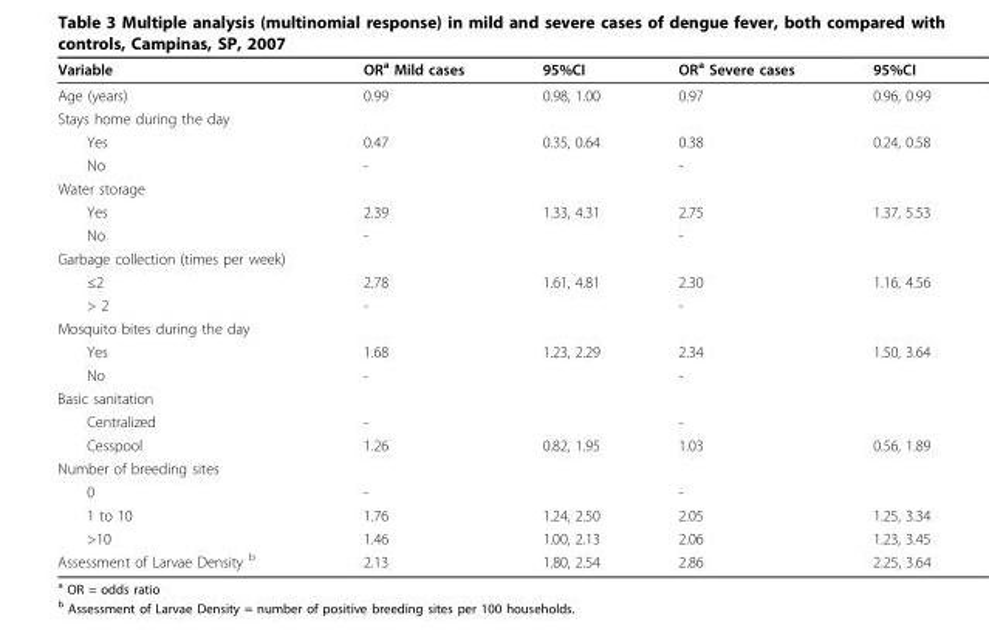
<table><thead><tr><td>Variable</td><td>OR<sup>a</sup> Mild cases</td><td>95%CI</td><td>OR<sup>a</sup> Severe cases</td><td>95%CI</td></tr></thead><tbody><tr><td>Age (years)</td><td>0.99</td><td>0.98, 1.00</td><td>0.97</td><td>0.96, 0.99</td></tr><tr><td colspan="5">Stays home during the day</td></tr><tr><td>Yes</td><td>0.47</td><td>0.35, 0.64</td><td>0.38</td><td>0.24, 0.58</td></tr><tr><td>No</td><td>-</td><td></td><td>-</td><td></td></tr><tr><td colspan="5">Water storage</td></tr><tr><td>Yes</td><td>2.39</td><td>1.33, 4.31</td><td>2.75</td><td>1.37, 5.53</td></tr><tr><td>No</td><td>-</td><td></td><td>-</td><td></td></tr><tr><td colspan="5">Garbage collection (times per week)</td></tr><tr><td>≤2</td><td>2.78</td><td>1.61, 4.81</td><td>2.30</td><td>1.16, 4.56</td></tr><tr><td>&gt; 2</td><td>-</td><td></td><td>-</td><td></td></tr><tr><td colspan="5">Mosquito bites during the day</td></tr><tr><td>Yes</td><td>1.68</td><td>1.23, 2.29</td><td>2.34</td><td>1.50, 3.64</td></tr><tr><td>No</td><td>-</td><td></td><td>-</td><td></td></tr><tr><td colspan="5">Basic sanitation</td></tr><tr><td>Centralized</td><td>-</td><td></td><td>-</td><td></td></tr><tr><td>Cesspool</td><td>1.26</td><td>0.82, 1.95</td><td>1.03</td><td>0.56, 1.89</td></tr><tr><td colspan="5">Number of breeding sites</td></tr><tr><td>0</td><td>-</td><td></td><td>-</td><td></td></tr><tr><td>1 to 10</td><td>1.76</td><td>1.24, 2.50</td><td>2.05</td><td>1.25, 3.34</td></tr><tr><td>&gt;10</td><td>1.46</td><td>1.00, 2.13</td><td>2.06</td><td>1.23, 3.45</td></tr><tr><td>Assessment of Larvae Density <sup>b</sup></td><td>2.13</td><td>1.80, 2.54</td><td>2.86</td><td>2.25, 3.64</td></tr></tbody></table>